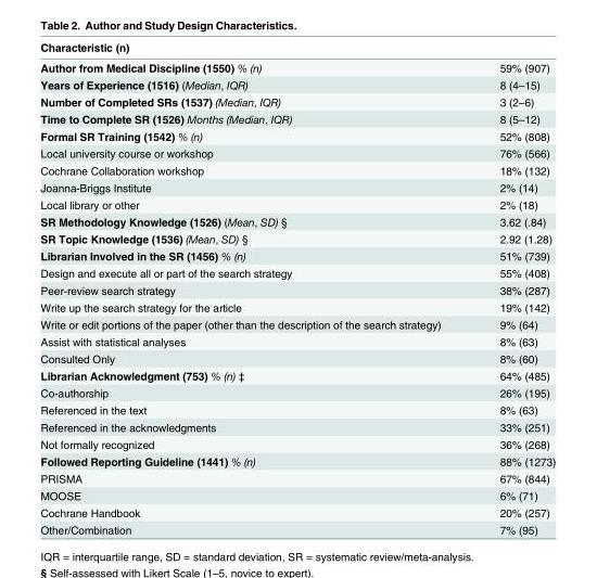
<table><thead><tr><td>Characteristic (n)</td><td></td></tr></thead><tbody><tr><td>Author from Medical Discipline (1550) % (n)</td><td>59% (907)</td></tr><tr><td>Years of Experience (1516) (Median, IQR)</td><td>8 (4–15)</td></tr><tr><td>Number of Completed SRs (1537) (Median, IQR)</td><td>3 (2–6)</td></tr><tr><td>Time to Complete SR (1526) Months (Median, IQR)</td><td>8 (5–12)</td></tr><tr><td>Formal SR Training (1542) % (n)</td><td>52% (808)</td></tr><tr><td>Local university course or workshop</td><td>76% (566)</td></tr><tr><td>Cochrane Collaboration workshop</td><td>18% (132)</td></tr><tr><td>Joanna-Briggs Institute</td><td>2% (14)</td></tr><tr><td>Local library or other</td><td>2% (18)</td></tr><tr><td>SR Methodology Knowledge (1526) (Mean, SD) §</td><td>3.62 (.84)</td></tr><tr><td>SR Topic Knowledge (1536) (Mean, SD) §</td><td>2.92 (1.28)</td></tr><tr><td>Librarian Involved in the SR (1456) % (n)</td><td>51% (739)</td></tr><tr><td>Design and execute all or part of the search strategy</td><td>55% (408)</td></tr><tr><td>Peer-review search strategy</td><td>38% (287)</td></tr><tr><td>Write up the search strategy for the article</td><td>19% (142)</td></tr><tr><td>Write or edit portions of the paper (other than the description of the search strategy)</td><td>9% (64)</td></tr><tr><td>Assist with statistical analyses</td><td>8% (63)</td></tr><tr><td>Consulted Only</td><td>8% (60)</td></tr><tr><td>Librarian Acknowledgment (753) % (n) ‡</td><td>64% (485)</td></tr><tr><td>Co-authorship</td><td>26% (195)</td></tr><tr><td>Referenced in the text</td><td>8% (63)</td></tr><tr><td>Referenced in the acknowledgments</td><td>33% (251)</td></tr><tr><td>Not formally recognized</td><td>36% (268)</td></tr><tr><td>Followed Reporting Guideline (1441) % (n)</td><td>88% (1273)</td></tr><tr><td>PRISMA</td><td>67% (844)</td></tr><tr><td>MOOSE</td><td>6% (71)</td></tr><tr><td>Cochrane Handbook</td><td>20% (257)</td></tr><tr><td>Other/Combination</td><td>7% (95)</td></tr></tbody></table>